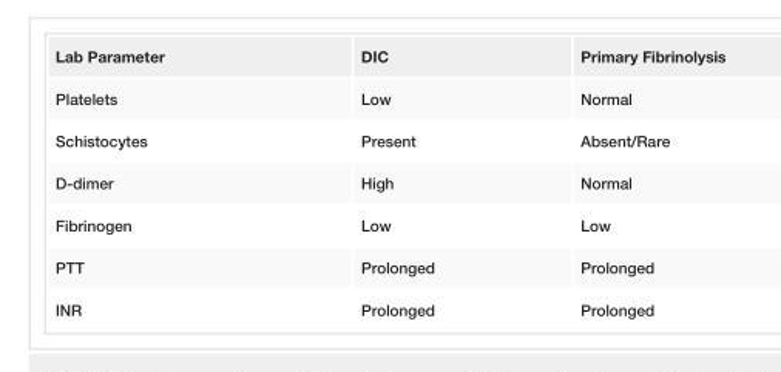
<table><tbody><tr><td>Lab Parameter</td><td>DIC</td><td>Primary Fibrinolysis</td></tr><tr><td>Platelets</td><td>Low</td><td>Normal</td></tr><tr><td>Schistocytes</td><td>Present</td><td>Absent/Rare</td></tr><tr><td>D-dimer</td><td>High</td><td>Normal</td></tr><tr><td>Fibrinogen</td><td>Low</td><td>Low</td></tr><tr><td>PTT</td><td>Prolonged</td><td>Prolonged</td></tr><tr><td>INR</td><td>Prolonged</td><td>Prolonged</td></tr></tbody></table>